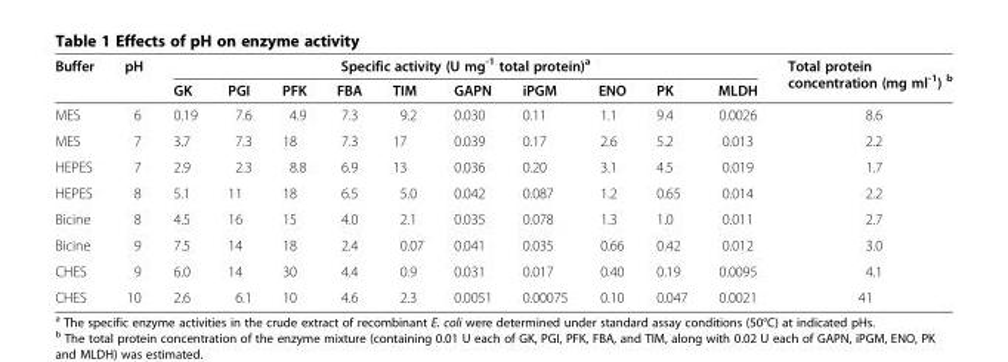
<table><thead><tr><td rowspan="2">Buffer</td><td rowspan="2">pH</td><td colspan="10">Specific activity (U mg<sup>-1</sup> total protein)<sup>a</sup></td><td rowspan="2">Total protein concentration (mg ml<sup>-1</sup>) <sup>b</sup></td></tr><tr><td>GK</td><td>PGI</td><td>PFK</td><td>FBA</td><td>TIM</td><td>GAPN</td><td>iPGM</td><td>ENO</td><td>PK</td><td>MLDH</td></tr></thead><tbody><tr><td>MES</td><td>6</td><td>0.19</td><td>7.6</td><td>4.9</td><td>7.3</td><td>9.2</td><td>0.030</td><td>0.11</td><td>1.1</td><td>9.4</td><td>0.0026</td><td>8.6</td></tr><tr><td>MES</td><td>7</td><td>3.7</td><td>7.3</td><td>18</td><td>7.3</td><td>17</td><td>0.039</td><td>0.17</td><td>2.6</td><td>5.2</td><td>0.013</td><td>2.2</td></tr><tr><td>HEPES</td><td>7</td><td>2.9</td><td>2.3</td><td>8.8</td><td>6.9</td><td>13</td><td>0.036</td><td>0.20</td><td>3.1</td><td>4.5</td><td>0.019</td><td>1.7</td></tr><tr><td>HEPES</td><td>8</td><td>5.1</td><td>11</td><td>18</td><td>6.5</td><td>5.0</td><td>0.042</td><td>0.087</td><td>1.2</td><td>0.65</td><td>0.014</td><td>2.2</td></tr><tr><td>Bicine</td><td>8</td><td>4.5</td><td>16</td><td>15</td><td>4.0</td><td>2.1</td><td>0.035</td><td>0.078</td><td>1.3</td><td>1.0</td><td>0.011</td><td>2.7</td></tr><tr><td>Bicine</td><td>9</td><td>7.5</td><td>14</td><td>18</td><td>2.4</td><td>0.07</td><td>0.041</td><td>0.035</td><td>0.66</td><td>0.42</td><td>0.012</td><td>3.0</td></tr><tr><td>CHES</td><td>9</td><td>6.0</td><td>14</td><td>30</td><td>4.4</td><td>0.9</td><td>0.031</td><td>0.017</td><td>0.40</td><td>0.19</td><td>0.0095</td><td>4.1</td></tr><tr><td>CHES</td><td>10</td><td>2.6</td><td>6.1</td><td>10</td><td>4.6</td><td>2.3</td><td>0.0051</td><td>0.00075</td><td>0.10</td><td>0.047</td><td>0.0021</td><td>41</td></tr></tbody></table>